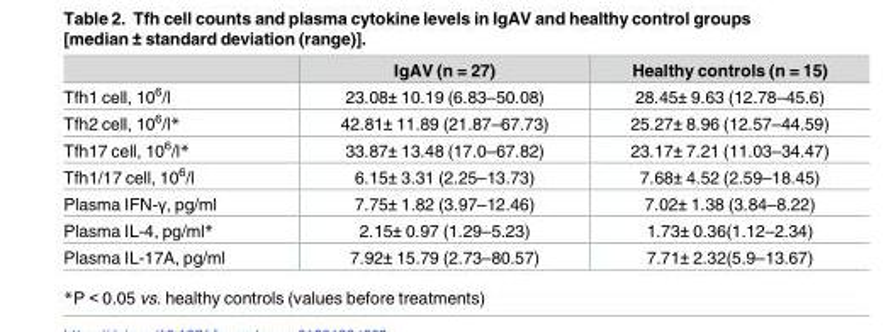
<table><thead><tr><td></td><td>IgAV (n = 27)</td><td>Healthy controls (n = 15)</td></tr></thead><tbody><tr><td>Tfh1 cell, 10<sup>6</sup>/l</td><td>23.08± 10.19 (6.83–50.08)</td><td>28.45± 9.63 (12.78–45.6)</td></tr><tr><td>Tfh2 cell, 10<sup>6</sup>/l*</td><td>42.81± 11.89 (21.87–67.73)</td><td>25.27± 8.96 (12.57–44.59)</td></tr><tr><td>Tfh17 cell, 10<sup>6</sup>/l*</td><td>33.87± 13.48 (17.0–67.82)</td><td>23.17± 7.21 (11.03–34.47)</td></tr><tr><td>Tfh1/17 cell, 10<sup>6</sup>/l</td><td>6.15± 3.31 (2.25–13.73)</td><td>7.68± 4.52 (2.59–18.45)</td></tr><tr><td>Plasma IFN-γ, pg/ml</td><td>7.75± 1.82 (3.97–12.46)</td><td>7.02± 1.38 (3.84–8.22)</td></tr><tr><td>Plasma IL-4, pg/ml*</td><td>2.15± 0.97 (1.29–5.23)</td><td>1.73± 0.36(1.12–2.34)</td></tr><tr><td>Plasma IL-17A, pg/ml</td><td>7.92± 15.79 (2.73–80.57)</td><td>7.71± 2.32(5.9–13.67)</td></tr></tbody></table>